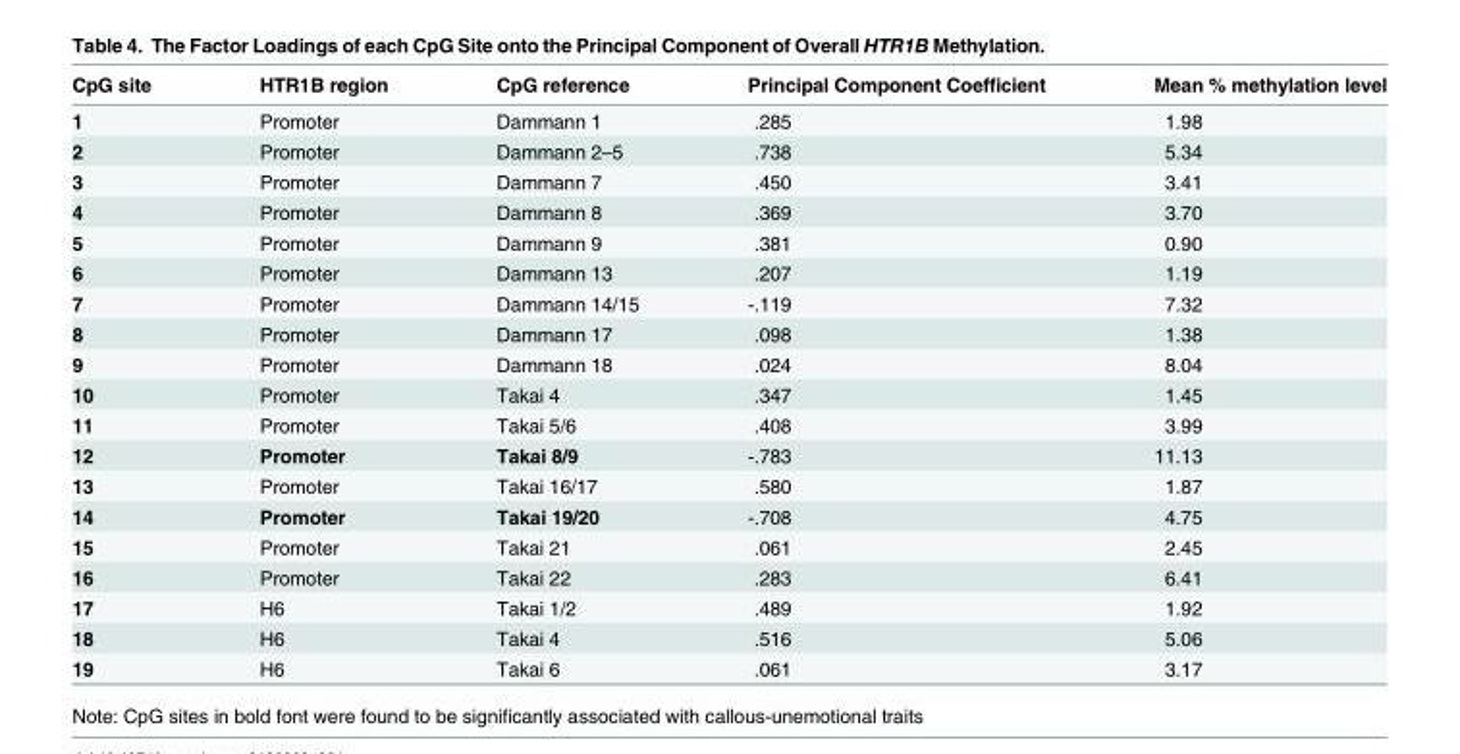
<table><thead><tr><td>CpG site</td><td>HTR1B region</td><td>CpG reference</td><td>Principal Component Coefficient</td><td>Mean % methylation level</td></tr></thead><tbody><tr><td>1</td><td>Promoter</td><td>Dammann 1</td><td>.285</td><td>1.98</td></tr><tr><td>2</td><td>Promoter</td><td>Dammann 2–5</td><td>.738</td><td>5.34</td></tr><tr><td>3</td><td>Promoter</td><td>Dammann 7</td><td>.450</td><td>3.41</td></tr><tr><td>4</td><td>Promoter</td><td>Dammann 8</td><td>.369</td><td>3.70</td></tr><tr><td>5</td><td>Promoter</td><td>Dammann 9</td><td>.381</td><td>0.90</td></tr><tr><td>6</td><td>Promoter</td><td>Dammann 13</td><td>.207</td><td>1.19</td></tr><tr><td>7</td><td>Promoter</td><td>Dammann 14/15</td><td>-.119</td><td>7.32</td></tr><tr><td>8</td><td>Promoter</td><td>Dammann 17</td><td>.098</td><td>1.38</td></tr><tr><td>9</td><td>Promoter</td><td>Dammann 18</td><td>.024</td><td>8.04</td></tr><tr><td>10</td><td>Promoter</td><td>Takai 4</td><td>.347</td><td>1.45</td></tr><tr><td>11</td><td>Promoter</td><td>Takai 5/6</td><td>.408</td><td>3.99</td></tr><tr><td>12</td><td>Promoter</td><td>Takai 8/9</td><td>-.783</td><td>11.13</td></tr><tr><td>13</td><td>Promoter</td><td>Takai 16/17</td><td>.580</td><td>1.87</td></tr><tr><td>14</td><td>Promoter</td><td>Takai 19/20</td><td>-.708</td><td>4.75</td></tr><tr><td>15</td><td>Promoter</td><td>Takai 21</td><td>.061</td><td>2.45</td></tr><tr><td>16</td><td>Promoter</td><td>Takai 22</td><td>.283</td><td>6.41</td></tr><tr><td>17</td><td>H6</td><td>Takai 1/2</td><td>.489</td><td>1.92</td></tr><tr><td>18</td><td>H6</td><td>Takai 4</td><td>.516</td><td>5.06</td></tr><tr><td>19</td><td>H6</td><td>Takai 6</td><td>.061</td><td>3.17</td></tr></tbody></table>